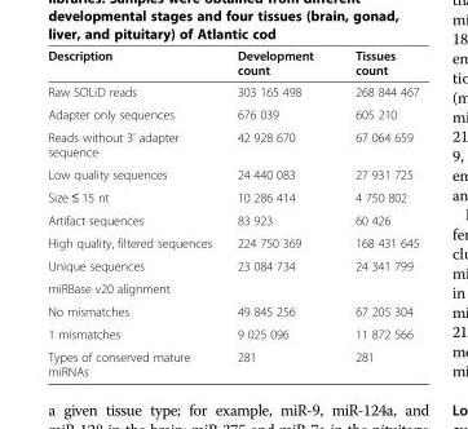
<table><thead><tr><td>Description</td><td>Development count</td><td>Tissues count</td></tr></thead><tbody><tr><td>Raw SOLiD reads</td><td>303 165 498</td><td>268 844 467</td></tr><tr><td>Adapter only sequences</td><td>676 039</td><td>605 210</td></tr><tr><td>Reads without 3’ adapter sequence</td><td>42 928 670</td><td>67 064 659</td></tr><tr><td>Low quality sequences</td><td>24 440 083</td><td>27 931 725</td></tr><tr><td>Size ≤ 15 nt</td><td>10 286 414</td><td>4 750 802</td></tr><tr><td>Artifact sequences</td><td>83 923</td><td>60 426</td></tr><tr><td>High quality, filtered sequences</td><td>224 750 369</td><td>168 431 645</td></tr><tr><td>Unique sequences</td><td>23 084 734</td><td>24 341 799</td></tr><tr><td colspan="3">miRBase v20 alignment</td></tr><tr><td>No mismatches</td><td>49 845 256</td><td>67 205 304</td></tr><tr><td>1 mismatches</td><td>9 025 096</td><td>11 872 566</td></tr><tr><td>Types of conserved mature miRNAs</td><td>281</td><td>281</td></tr></tbody></table>